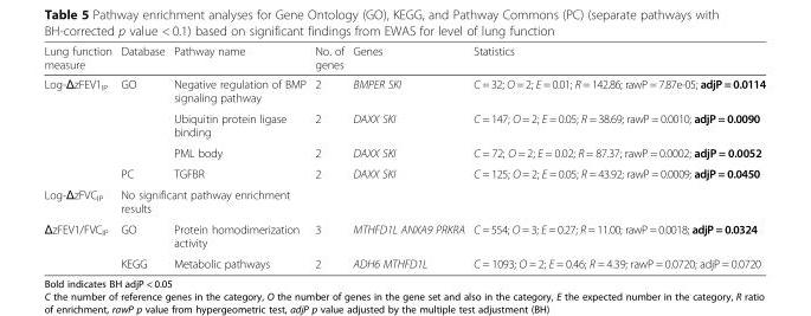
<table><thead><tr><td>Lung function measure</td><td>Database</td><td>Pathway name</td><td>No. of genes</td><td>Genes</td><td>Statistics</td></tr></thead><tbody><tr><td rowspan="4">Log-ΔzFEV1<sub>IP</sub></td><td rowspan="3">GO</td><td>Negative regulation of BMP signaling pathway</td><td>2</td><td>BMPER SKI</td><td>C = 32; O = 2; E = 0.01; R = 142.86; rawP = 7.87e-05; adjP = 0.0114</td></tr><tr><td>Ubiquitin protein ligase binding</td><td>2</td><td>DAXX SKI</td><td>C = 147; O = 2; E = 0.05; R = 38.69; rawP = 0.0010; adjP = 0.0090</td></tr><tr><td>PML body</td><td>2</td><td>DAXX SKI</td><td>C = 72; O = 2; E = 0.02; R = 87.37; rawP = 0.0002; adjP = 0.0052</td></tr><tr><td>PC</td><td>TGFBR</td><td>2</td><td>DAXX SKI</td><td>C = 125; O = 2; E = 0.05; R = 43.92; rawP = 0.0009; adjP = 0.0450</td></tr><tr><td>Log-ΔzFVC<sub>IP</sub></td><td colspan="2">No significant pathway enrichment results</td><td></td><td></td><td></td></tr><tr><td rowspan="2">ΔzFEV1/FVC<sub>IP</sub></td><td>GO</td><td>Protein homodimerization activity</td><td>3</td><td>MTHFD1L ANXA9 PRKRA</td><td>C = 554; O = 3; E = 0.27; R = 11.00; rawP = 0.0018; adjP = 0.0324</td></tr><tr><td>KEGG</td><td>Metabolic pathways</td><td>2</td><td>ADH6 MTHFD1L</td><td>C = 1093; O = 2; E = 0.46; R = 4.39; rawP = 0.0720; adjP = 0.0720</td></tr></tbody></table>